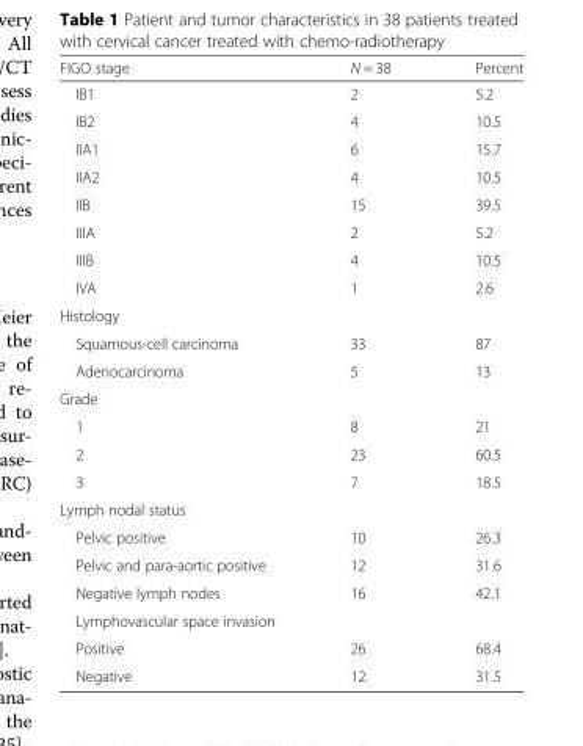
<table><thead><tr><td>FIGO stage</td><td>N = 38</td><td>Percent</td></tr></thead><tbody><tr><td>IB1</td><td>2</td><td>5.2</td></tr><tr><td>IB2</td><td>4</td><td>10.5</td></tr><tr><td>IIA1</td><td>6</td><td>15.7</td></tr><tr><td>IIA2</td><td>4</td><td>10.5</td></tr><tr><td>IIB</td><td>15</td><td>39.5</td></tr><tr><td>IIIA</td><td>2</td><td>5.2</td></tr><tr><td>IIIB</td><td>4</td><td>10.5</td></tr><tr><td>IVA</td><td>1</td><td>2.6</td></tr><tr><td colspan="3">Histology</td></tr><tr><td>Squamous-cell carcinoma</td><td>33</td><td>87</td></tr><tr><td>Adenocarcinoma</td><td>5</td><td>13</td></tr><tr><td colspan="3">Grade</td></tr><tr><td>1</td><td>8</td><td>21</td></tr><tr><td>2</td><td>23</td><td>60.5</td></tr><tr><td>3</td><td>7</td><td>18.5</td></tr><tr><td colspan="3">Lymph nodal status</td></tr><tr><td>Pelvic positive</td><td>10</td><td>26.3</td></tr><tr><td>Pelvic and para-aortic positive</td><td>12</td><td>31.6</td></tr><tr><td>Negative lymph nodes</td><td>16</td><td>42.1</td></tr><tr><td colspan="3">Lymphovascular space invasion</td></tr><tr><td>Positive</td><td>26</td><td>68.4</td></tr><tr><td>Negative</td><td>12</td><td>31.5</td></tr></tbody></table>